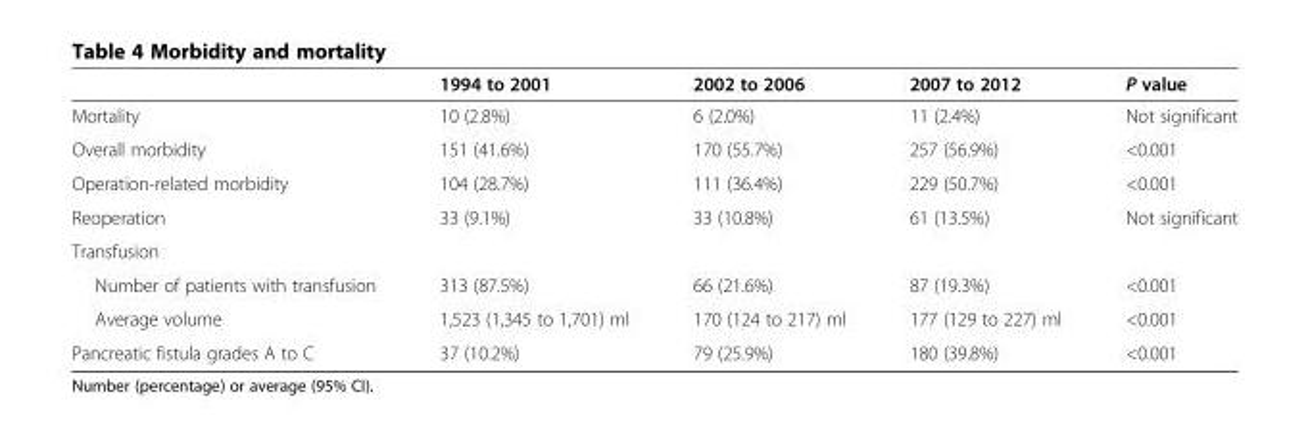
<table><thead><tr><td></td><td>1994 to 2001</td><td>2002 to 2006</td><td>2007 to 2012</td><td>P value</td></tr></thead><tbody><tr><td>Mortality</td><td>10 (2.8%)</td><td>6 (2.0%)</td><td>11 (2.4%)</td><td>Not significant</td></tr><tr><td>Overall morbidity</td><td>151 (41.6%)</td><td>170 (55.7%)</td><td>257 (56.9%)</td><td>&lt;0.001</td></tr><tr><td>Operation-related morbidity</td><td>104 (28.7%)</td><td>111 (36.4%)</td><td>229 (50.7%)</td><td>&lt;0.001</td></tr><tr><td>Reoperation</td><td>33 (9.1%)</td><td>33 (10.8%)</td><td>61 (13.5%)</td><td>Not significant</td></tr><tr><td colspan="5">Transfusion</td></tr><tr><td>Number of patients with transfusion</td><td>313 (87.5%)</td><td>66 (21.6%)</td><td>87 (19.3%)</td><td>&lt;0.001</td></tr><tr><td>Average volume</td><td>1,523 (1,345 to 1,701) ml</td><td>170 (124 to 217) ml</td><td>177 (129 to 227) ml</td><td>&lt;0.001</td></tr><tr><td>Pancreatic fistula grades A to C</td><td>37 (10.2%)</td><td>79 (25.9%)</td><td>180 (39.8%)</td><td>&lt;0.001</td></tr></tbody></table>